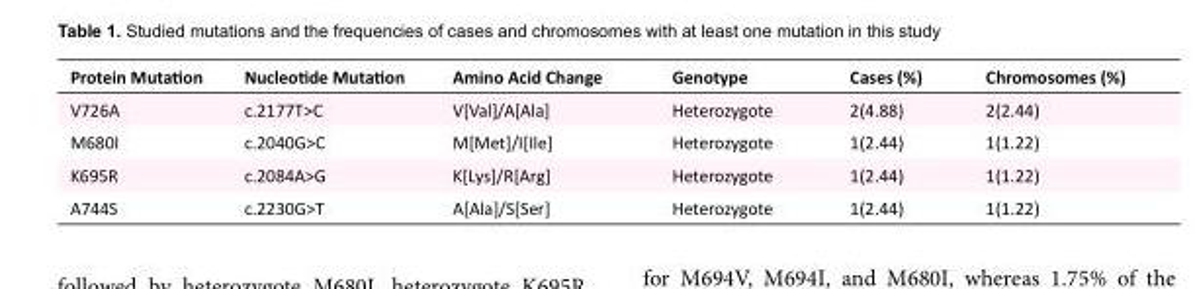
<table><tbody><tr><td>Protein Mutation</td><td>Nucleotide Mutation</td><td>Amino Acid Change</td><td>Genotype</td><td>Cases (%)</td><td>Chromosomes (%)</td></tr><tr><td>V726A</td><td>c.2177T&gt;C</td><td>V[Val]/A[Ala]</td><td>Heterozygote</td><td>2(4.88)</td><td>2(2.44)</td></tr><tr><td>M680I</td><td>c.2040G&gt;C</td><td>M[Met]/I[Ile]</td><td>Heterozygote</td><td>1(2.44)</td><td>1(1.22)</td></tr><tr><td>K695R</td><td>c.2084A&gt;G</td><td>K[Lys]/R[Arg]</td><td>Heterozygote</td><td>1(2.44)</td><td>1(1.22)</td></tr><tr><td>A744S</td><td>c.2230G&gt;T</td><td>A[Ala]/S[Ser]</td><td>Heterozygote</td><td>1(2.44)</td><td>1(1.22)</td></tr></tbody></table>